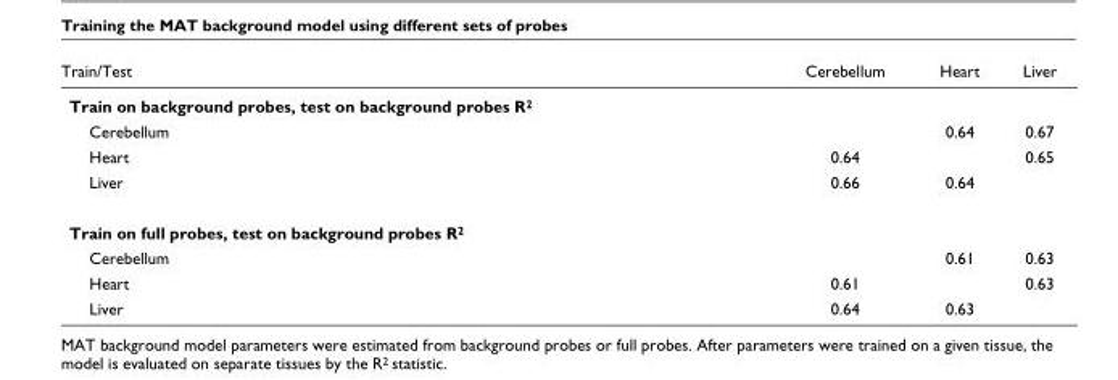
<table><thead><tr><td>Train/Test</td><td>Cerebellum</td><td>Heart</td><td>Liver</td></tr></thead><tbody><tr><td colspan="4">Train on background probes, test on background probes R<sup>2</sup></td></tr><tr><td>Cerebellum</td><td></td><td>0.64</td><td>0.67</td></tr><tr><td>Heart</td><td>0.64</td><td></td><td>0.65</td></tr><tr><td>Liver</td><td>0.66</td><td>0.64</td><td></td></tr><tr><td colspan="4">Train on full probes, test on background probes R<sup>2</sup></td></tr><tr><td>Cerebellum</td><td></td><td>0.61</td><td>0.63</td></tr><tr><td>Heart</td><td>0.61</td><td></td><td>0.63</td></tr><tr><td>Liver</td><td>0.64</td><td>0.63</td><td></td></tr></tbody></table>